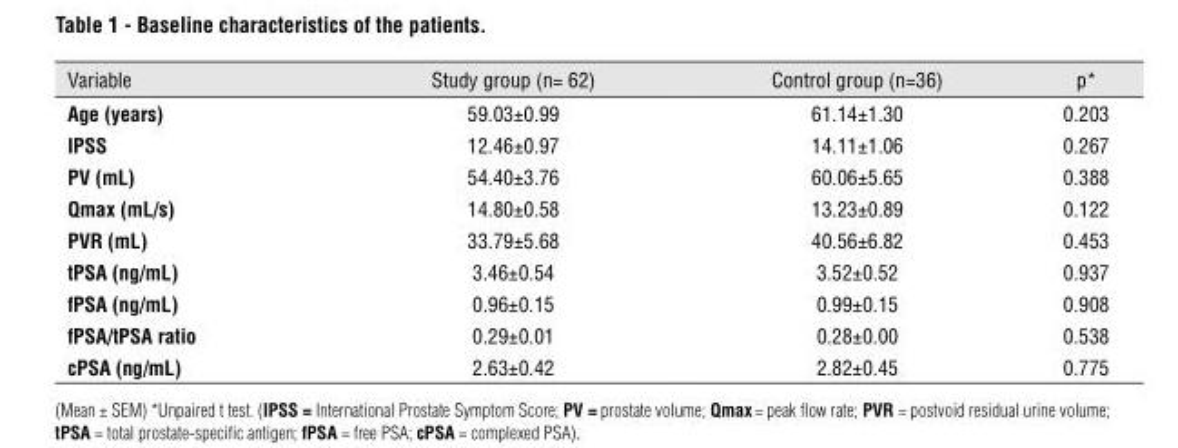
<table><thead><tr><td>Variable</td><td>Study group (n= 62)</td><td>Control group (n=36)</td><td>p*</td></tr></thead><tbody><tr><td>Age (years)</td><td>59.03±0.99</td><td>61.14±1.30</td><td>0.203</td></tr><tr><td>Ipss</td><td>12.46±0.97</td><td>14.11±1.06</td><td>0.267</td></tr><tr><td>pv (mL)</td><td>54.40±3.76</td><td>60.06±5.65</td><td>0.388</td></tr><tr><td>Qmax (mL/s)</td><td>14.80±0.58</td><td>13.23±0.89</td><td>0.122</td></tr><tr><td>pvR (mL)</td><td>33.79±5.68</td><td>40.56±6.82</td><td>0.453</td></tr><tr><td>tpsA (ng/mL)</td><td>3.46±0.54</td><td>3.52±0.52</td><td>0.937</td></tr><tr><td>fpsA (ng/mL)</td><td>0.96±0.15</td><td>0.99±0.15</td><td>0.908</td></tr><tr><td>fpsA/tpsA ratio</td><td>0.29±0.01</td><td>0.28±0.00</td><td>0.538</td></tr><tr><td>cpsA (ng/mL)</td><td>2.63±0.42</td><td>2.82±0.45</td><td>0.775</td></tr></tbody></table>